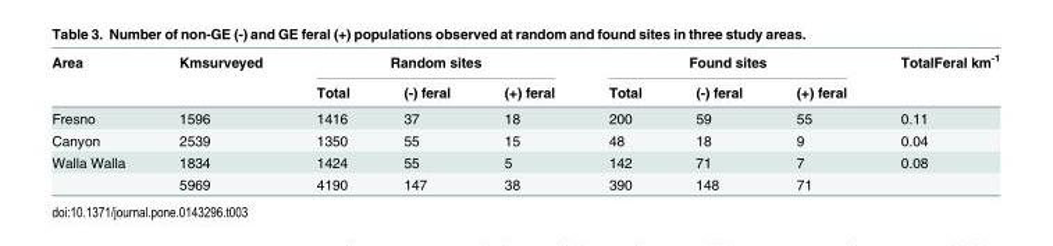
<table><thead><tr><td rowspan="2">Area</td><td rowspan="2">Kmsurveyed</td><td colspan="3">Random sites</td><td colspan="3">Found sites</td><td rowspan="2">TotalFeral km<sup>-1</sup></td></tr><tr><td>Total</td><td>(-) feral</td><td>(+) feral</td><td>Total</td><td>(-) feral</td><td>(+) feral</td></tr></thead><tbody><tr><td>Fresno</td><td>1596</td><td>1416</td><td>37</td><td>18</td><td>200</td><td>59</td><td>55</td><td>0.11</td></tr><tr><td>Canyon</td><td>2539</td><td>1350</td><td>55</td><td>15</td><td>48</td><td>18</td><td>9</td><td>0.04</td></tr><tr><td rowspan="2">Walla Walla</td><td>1834</td><td>1424</td><td>55</td><td>5</td><td>142</td><td>71</td><td>7</td><td>0.08</td></tr><tr><td>5969</td><td>4190</td><td>147</td><td>38</td><td>390</td><td>148</td><td>71</td><td></td></tr></tbody></table>